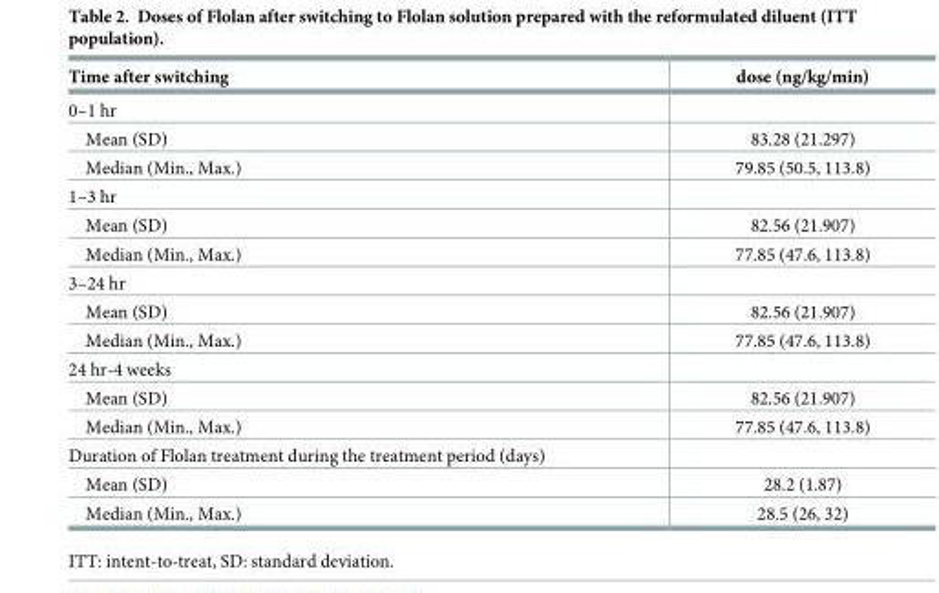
<table><thead><tr><td>Time after switching</td><td>dose (ng/kg/min)</td></tr></thead><tbody><tr><td colspan="2">0–1 hr</td></tr><tr><td>Mean (SD)</td><td>83.28 (21.297)</td></tr><tr><td>Median (Min., Max.)</td><td>79.85 (50.5, 113.8)</td></tr><tr><td colspan="2">1–3 hr</td></tr><tr><td>Mean (SD)</td><td>82.56 (21.907)</td></tr><tr><td>Median (Min., Max.)</td><td>77.85 (47.6, 113.8)</td></tr><tr><td colspan="2">3–24 hr</td></tr><tr><td>Mean (SD)</td><td>82.56 (21.907)</td></tr><tr><td>Median (Min., Max.)</td><td>77.85 (47.6, 113.8)</td></tr><tr><td colspan="2">24 hr-4 weeks</td></tr><tr><td>Mean (SD)</td><td>82.56 (21.907)</td></tr><tr><td>Median (Min., Max.)</td><td>77.85 (47.6, 113.8)</td></tr><tr><td colspan="2">Duration of Flolan treatment during the treatment period (days)</td></tr><tr><td>Mean (SD)</td><td>28.2 (1.87)</td></tr><tr><td>Median (Min., Max.)</td><td>28.5 (26, 32)</td></tr></tbody></table>